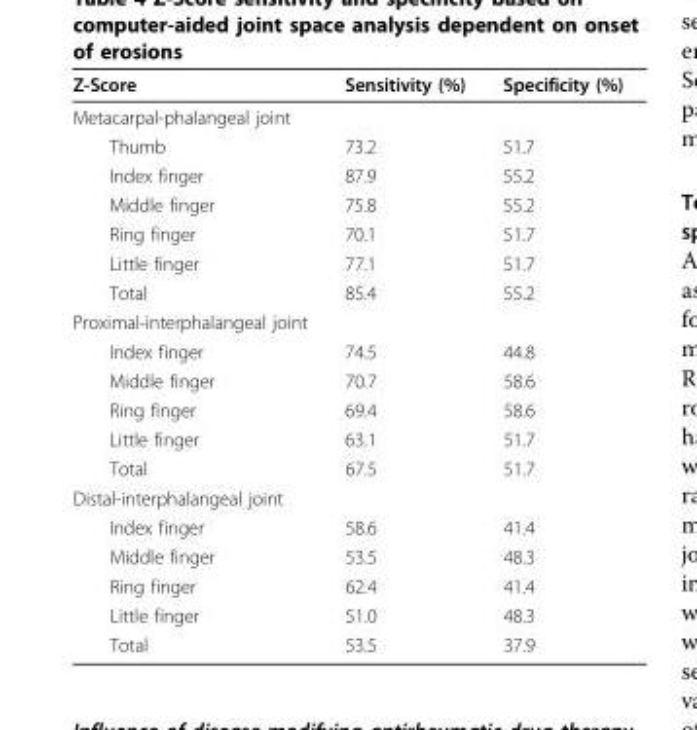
<table><thead><tr><td>Z-Score</td><td>Sensitivity (%)</td><td>Specificity (%)</td></tr></thead><tbody><tr><td colspan="3">Metacarpal-phalangeal joint</td></tr><tr><td>Thumb</td><td>73.2</td><td>51.7</td></tr><tr><td>Index finger</td><td>87.9</td><td>55.2</td></tr><tr><td>Middle finger</td><td>75.8</td><td>55.2</td></tr><tr><td>Ring finger</td><td>70.1</td><td>51.7</td></tr><tr><td>Little finger</td><td>77.1</td><td>51.7</td></tr><tr><td>Total</td><td>85.4</td><td>55.2</td></tr><tr><td colspan="3">Proximal-interphalangeal joint</td></tr><tr><td>Index finger</td><td>74.5</td><td>44.8</td></tr><tr><td>Middle finger</td><td>70.7</td><td>58.6</td></tr><tr><td>Ring finger</td><td>69.4</td><td>58.6</td></tr><tr><td>Little finger</td><td>63.1</td><td>51.7</td></tr><tr><td>Total</td><td>67.5</td><td>51.7</td></tr><tr><td colspan="3">Distal-interphalangeal joint</td></tr><tr><td>Index finger</td><td>58.6</td><td>41.4</td></tr><tr><td>Middle finger</td><td>53.5</td><td>48.3</td></tr><tr><td>Ring finger</td><td>62.4</td><td>41.4</td></tr><tr><td>Little finger</td><td>51.0</td><td>48.3</td></tr><tr><td>Total</td><td>53.5</td><td>37.9</td></tr></tbody></table>